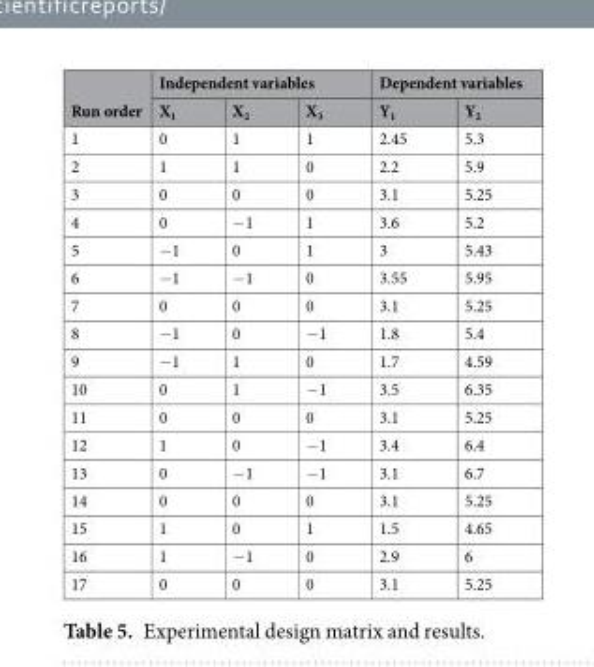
<table><thead><tr><td rowspan="2">Run order</td><td colspan="3">Independent variables</td><td colspan="2">Dependent variables</td></tr><tr><td>X<sub>1</sub></td><td>X<sub>2</sub></td><td>X<sub>3</sub></td><td>Y<sub>1</sub></td><td>Y<sub>2</sub></td></tr></thead><tbody><tr><td>1</td><td>0</td><td>1</td><td>1</td><td>2.45</td><td>5.3</td></tr><tr><td>2</td><td>1</td><td>1</td><td>0</td><td>2.2</td><td>5.9</td></tr><tr><td>3</td><td>0</td><td>0</td><td>0</td><td>3.1</td><td>5.25</td></tr><tr><td>4</td><td>0</td><td>−1</td><td>1</td><td>3.6</td><td>5.2</td></tr><tr><td>5</td><td>−1</td><td>0</td><td>1</td><td>3</td><td>5.43</td></tr><tr><td>6</td><td>−1</td><td>−1</td><td>0</td><td>3.55</td><td>5.95</td></tr><tr><td>7</td><td>0</td><td>0</td><td>0</td><td>3.1</td><td>5.25</td></tr><tr><td>8</td><td>−1</td><td>0</td><td>−1</td><td>1.8</td><td>5.4</td></tr><tr><td>9</td><td>−1</td><td>1</td><td>0</td><td>1.7</td><td>4.59</td></tr><tr><td>10</td><td>0</td><td>1</td><td>−1</td><td>3.5</td><td>6.35</td></tr><tr><td>11</td><td>0</td><td>0</td><td>0</td><td>3.1</td><td>5.25</td></tr><tr><td>12</td><td>1</td><td>0</td><td>−1</td><td>3.4</td><td>6.4</td></tr><tr><td>13</td><td>0</td><td>−1</td><td>−1</td><td>3.1</td><td>6.7</td></tr><tr><td>14</td><td>0</td><td>0</td><td>0</td><td>3.1</td><td>5.25</td></tr><tr><td>15</td><td>1</td><td>0</td><td>1</td><td>1.5</td><td>4.65</td></tr><tr><td>16</td><td>1</td><td>−1</td><td>0</td><td>2.9</td><td>6</td></tr><tr><td>17</td><td>0</td><td>0</td><td>0</td><td>3.1</td><td>5.25</td></tr></tbody></table>